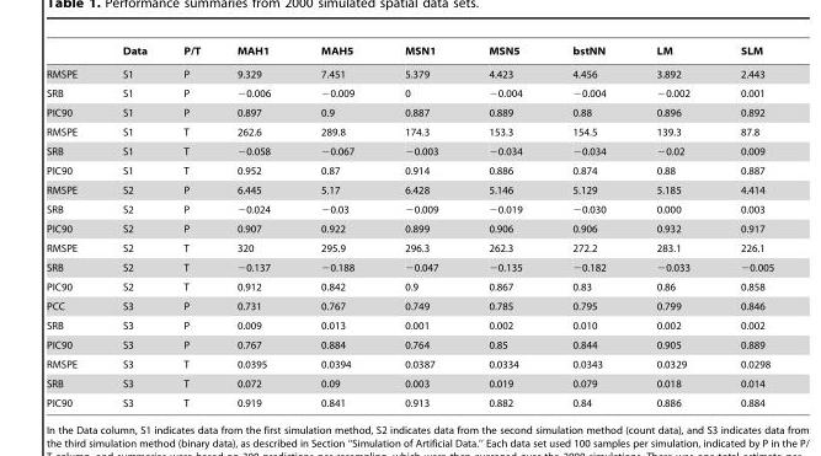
<table><thead><tr><td></td><td>Data</td><td>P/T</td><td>MAH1</td><td>MAH5</td><td>MSN1</td><td>MSN5</td><td>bstNN</td><td>LM</td><td>SLM</td></tr></thead><tbody><tr><td>RMSPE</td><td>S1</td><td>P</td><td>9.329</td><td>7.451</td><td>5.379</td><td>4.423</td><td>4.456</td><td>3.892</td><td>2.443</td></tr><tr><td>SRB</td><td>S1</td><td>P</td><td>−0.006</td><td>−0.009</td><td>0</td><td>−0.004</td><td>−0.004</td><td>−0.002</td><td>0.001</td></tr><tr><td>PIC90</td><td>S1</td><td>P</td><td>0.897</td><td>0.9</td><td>0.887</td><td>0.889</td><td>0.88</td><td>0.896</td><td>0.892</td></tr><tr><td>RMSPE</td><td>S1</td><td>T</td><td>262.6</td><td>289.8</td><td>174.3</td><td>153.3</td><td>154.5</td><td>139.3</td><td>87.8</td></tr><tr><td>SRB</td><td>S1</td><td>T</td><td>−0.058</td><td>−0.067</td><td>−0.003</td><td>−0.034</td><td>−0.034</td><td>−0.02</td><td>0.009</td></tr><tr><td>PIC90</td><td>S1</td><td>T</td><td>0.952</td><td>0.87</td><td>0.914</td><td>0.886</td><td>0.874</td><td>0.88</td><td>0.887</td></tr><tr><td>RMSPE</td><td>S2</td><td>P</td><td>6.445</td><td>5.17</td><td>6.428</td><td>5.146</td><td>5.129</td><td>5.185</td><td>4.414</td></tr><tr><td>SRB</td><td>S2</td><td>P</td><td>−0.024</td><td>−0.03</td><td>−0.009</td><td>−0.019</td><td>−0.030</td><td>0.000</td><td>0.003</td></tr><tr><td>PIC90</td><td>S2</td><td>P</td><td>0.907</td><td>0.922</td><td>0.899</td><td>0.906</td><td>0.906</td><td>0.932</td><td>0.917</td></tr><tr><td>RMSPE</td><td>S2</td><td>T</td><td>320</td><td>295.9</td><td>296.3</td><td>262.3</td><td>272.2</td><td>283.1</td><td>226.1</td></tr><tr><td>SRB</td><td>S2</td><td>T</td><td>−0.137</td><td>−0.188</td><td>−0.047</td><td>−0.135</td><td>−0.182</td><td>−0.033</td><td>−0.005</td></tr><tr><td>PIC90</td><td>S2</td><td>T</td><td>0.912</td><td>0.842</td><td>0.9</td><td>0.867</td><td>0.83</td><td>0.86</td><td>0.858</td></tr><tr><td>PCC</td><td>S3</td><td>P</td><td>0.731</td><td>0.767</td><td>0.749</td><td>0.785</td><td>0.795</td><td>0.799</td><td>0.846</td></tr><tr><td>SRB</td><td>S3</td><td>P</td><td>0.009</td><td>0.013</td><td>0.001</td><td>0.002</td><td>0.010</td><td>0.002</td><td>0.002</td></tr><tr><td>PIC90</td><td>S3</td><td>P</td><td>0.767</td><td>0.884</td><td>0.764</td><td>0.85</td><td>0.844</td><td>0.905</td><td>0.889</td></tr><tr><td>RMSPE</td><td>S3</td><td>T</td><td>0.0395</td><td>0.0394</td><td>0.0387</td><td>0.0334</td><td>0.0343</td><td>0.0329</td><td>0.0298</td></tr><tr><td>SRB</td><td>S3</td><td>T</td><td>0.072</td><td>0.09</td><td>0.003</td><td>0.019</td><td>0.079</td><td>0.018</td><td>0.014</td></tr><tr><td>PIC90</td><td>S3</td><td>T</td><td>0.919</td><td>0.841</td><td>0.913</td><td>0.882</td><td>0.84</td><td>0.886</td><td>0.884</td></tr></tbody></table>